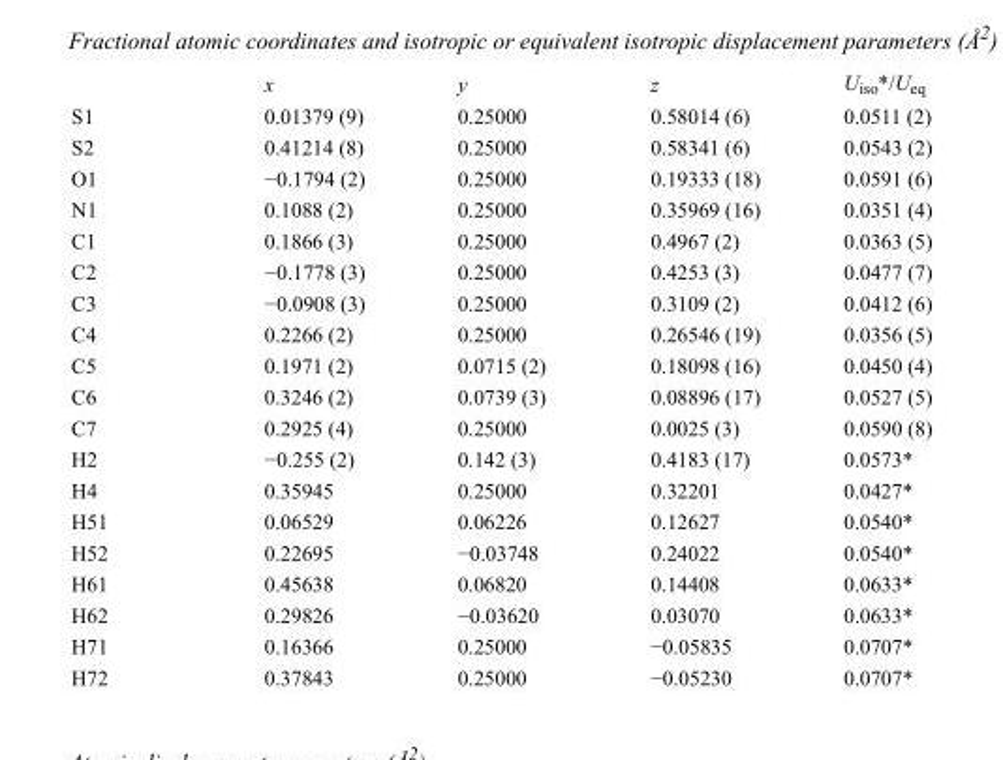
<table><thead><tr><td></td><td>x</td><td>y</td><td>z</td><td>U<sub>iso</sub>*/U<sub>eq</sub></td></tr></thead><tbody><tr><td>S1</td><td>0.01379 (9)</td><td>0.25000</td><td>0.58014 (6)</td><td>0.0511 (2)</td></tr><tr><td>S2</td><td>0.41214 (8)</td><td>0.25000</td><td>0.58341 (6)</td><td>0.0543 (2)</td></tr><tr><td>O1</td><td>−0.1794 (2)</td><td>0.25000</td><td>0.19333 (18)</td><td>0.0591 (6)</td></tr><tr><td>N1</td><td>0.1088 (2)</td><td>0.25000</td><td>0.35969 (16)</td><td>0.0351 (4)</td></tr><tr><td>C1</td><td>0.1866 (3)</td><td>0.25000</td><td>0.4967 (2)</td><td>0.0363 (5)</td></tr><tr><td>C2</td><td>−0.1778 (3)</td><td>0.25000</td><td>0.4253 (3)</td><td>0.0477 (7)</td></tr><tr><td>C3</td><td>−0.0908 (3)</td><td>0.25000</td><td>0.3109 (2)</td><td>0.0412 (6)</td></tr><tr><td>C4</td><td>0.2266 (2)</td><td>0.25000</td><td>0.26546 (19)</td><td>0.0356 (5)</td></tr><tr><td>C5</td><td>0.1971 (2)</td><td>0.0715 (2)</td><td>0.18098 (16)</td><td>0.0450 (4)</td></tr><tr><td>C6</td><td>0.3246 (2)</td><td>0.0739 (3)</td><td>0.08896 (17)</td><td>0.0527 (5)</td></tr><tr><td>C7</td><td>0.2925 (4)</td><td>0.25000</td><td>0.0025 (3)</td><td>0.0590 (8)</td></tr><tr><td>H2</td><td>−0.255 (2)</td><td>0.142 (3)</td><td>0.4183 (17)</td><td>0.0573*</td></tr><tr><td>H4</td><td>0.35945</td><td>0.25000</td><td>0.32201</td><td>0.0427*</td></tr><tr><td>H51</td><td>0.06529</td><td>0.06226</td><td>0.12627</td><td>0.0540*</td></tr><tr><td>H52</td><td>0.22695</td><td>−0.03748</td><td>0.24022</td><td>0.0540*</td></tr><tr><td>H61</td><td>0.45638</td><td>0.06820</td><td>0.14408</td><td>0.0633*</td></tr><tr><td>H62</td><td>0.29826</td><td>−0.03620</td><td>0.03070</td><td>0.0633*</td></tr><tr><td>H71</td><td>0.16366</td><td>0.25000</td><td>−0.05835</td><td>0.0707*</td></tr><tr><td>H72</td><td>0.37843</td><td>0.25000</td><td>−0.05230</td><td>0.0707*</td></tr></tbody></table>